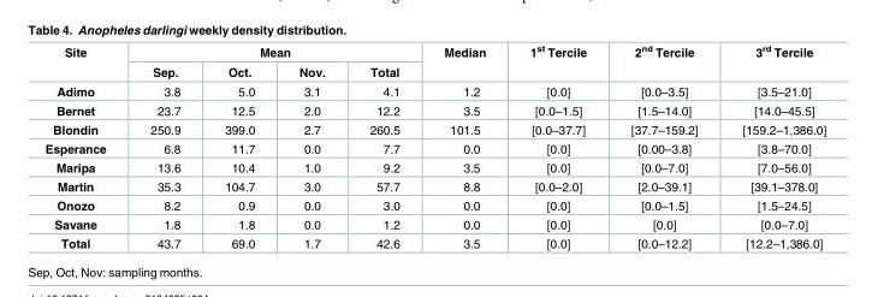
<table><thead><tr><td rowspan="2">Site</td><td colspan="4">Mean</td><td rowspan="2">Median</td><td rowspan="2">1<sup>st</sup> Tercile</td><td rowspan="2">2<sup>nd</sup> Tercile</td><td rowspan="2">3<sup>rd</sup> Tercile</td></tr><tr><td>Sep.</td><td>Oct.</td><td>Nov.</td><td>Total</td></tr></thead><tbody><tr><td>Adimo</td><td>3.8</td><td>5.0</td><td>3.1</td><td>4.1</td><td>1.2</td><td>[0.0]</td><td>[0.0–3.5]</td><td>[3.5–21.0]</td></tr><tr><td>Bernet</td><td>23.7</td><td>12.5</td><td>2.0</td><td>12.2</td><td>3.5</td><td>[0.0–1.5]</td><td>[1.5–14.0]</td><td>[14.0–45.5]</td></tr><tr><td>Blondin</td><td>250.9</td><td>399.0</td><td>2.7</td><td>260.5</td><td>101.5</td><td>[0.0–37.7]</td><td>[37.7–159.2]</td><td>[159.2–1,386.0]</td></tr><tr><td>Esperance</td><td>6.8</td><td>11.7</td><td>0.0</td><td>7.7</td><td>0.0</td><td>[0.0]</td><td>[0.00–3.8]</td><td>[3.8–70.0]</td></tr><tr><td>Maripa</td><td>13.6</td><td>10.4</td><td>1.0</td><td>9.2</td><td>3.5</td><td>[0.0]</td><td>[0.0–7.0]</td><td>[7.0–56.0]</td></tr><tr><td>Martin</td><td>35.3</td><td>104.7</td><td>3.0</td><td>57.7</td><td>8.8</td><td>[0.0–2.0]</td><td>[2.0–39.1]</td><td>[39.1–378.0]</td></tr><tr><td>Onozo</td><td>8.2</td><td>0.9</td><td>0.0</td><td>3.0</td><td>0.0</td><td>[0.0]</td><td>[0.0–1.5]</td><td>[1.5–24.5]</td></tr><tr><td>Savane</td><td>1.8</td><td>1.8</td><td>0.0</td><td>1.2</td><td>0.0</td><td>[0.0]</td><td>[0.0]</td><td>[0.0–7.0]</td></tr><tr><td>Total</td><td>43.7</td><td>69.0</td><td>1.7</td><td>42.6</td><td>3.5</td><td>[0.0]</td><td>[0.0–12.2]</td><td>[12.2–1,386.0]</td></tr></tbody></table>